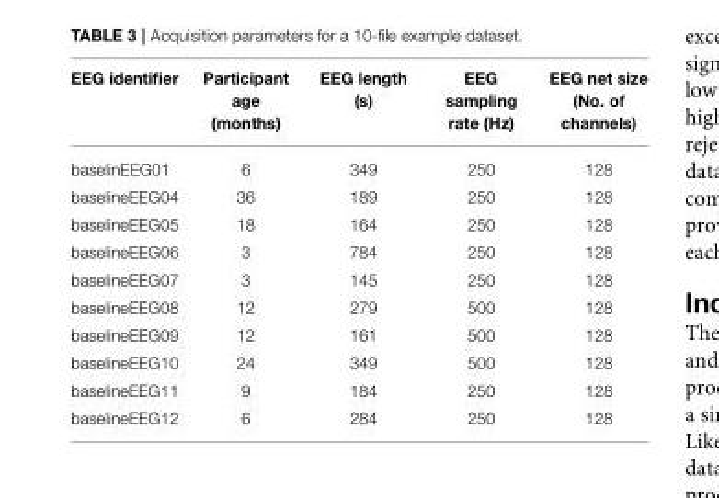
<table><thead><tr><td>EEG identifier</td><td>Participant age (months)</td><td>EEG length (s)</td><td>EEG sampling rate (Hz)</td><td>EEG net size (No. of channels)</td></tr></thead><tbody><tr><td>baselinEEG01</td><td>6</td><td>349</td><td>250</td><td>128</td></tr><tr><td>baselineEEG04</td><td>36</td><td>189</td><td>250</td><td>128</td></tr><tr><td>baselineEEG05</td><td>18</td><td>164</td><td>250</td><td>128</td></tr><tr><td>baselineEEG06</td><td>3</td><td>784</td><td>250</td><td>128</td></tr><tr><td>baselineEEG07</td><td>3</td><td>145</td><td>250</td><td>128</td></tr><tr><td>baselineEEG08</td><td>12</td><td>279</td><td>500</td><td>128</td></tr><tr><td>baselineEEG09</td><td>12</td><td>161</td><td>500</td><td>128</td></tr><tr><td>baselineEEG10</td><td>24</td><td>349</td><td>500</td><td>128</td></tr><tr><td>baselineEEG11</td><td>9</td><td>184</td><td>250</td><td>128</td></tr><tr><td>baselineEEG12</td><td>6</td><td>284</td><td>250</td><td>128</td></tr></tbody></table>